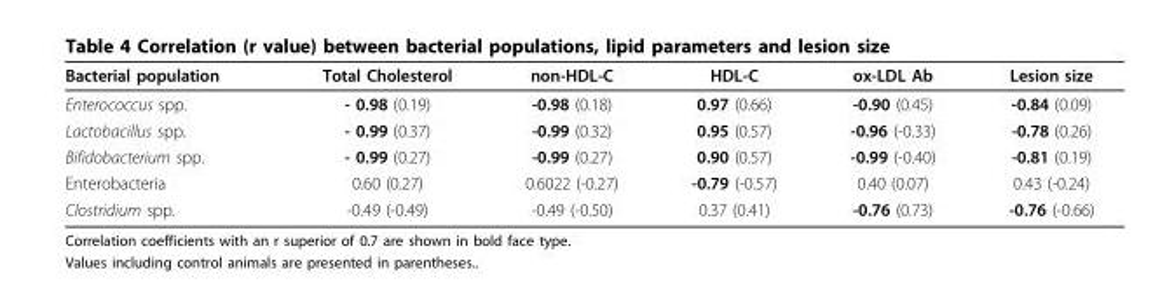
<table><thead><tr><td>Bacterial population</td><td>Total Cholesterol</td><td>non-HDL-C</td><td>HDL-C</td><td>ox-LDL Ab</td><td>Lesion size</td></tr></thead><tbody><tr><td>Enterococcus spp.</td><td>- 0.98 (0.19)</td><td>-0.98 (0.18)</td><td>0.97 (0.66)</td><td>-0.90 (0.45)</td><td>-0.84 (0.09)</td></tr><tr><td>Lactobacillus spp.</td><td>- 0.99 (0.37)</td><td>-0.99 (0.32)</td><td>0.95 (0.57)</td><td>-0.96 (-0.33)</td><td>-0.78 (0.26)</td></tr><tr><td>Bifidobacterium spp.</td><td>- 0.99 (0.27)</td><td>-0.99 (0.27)</td><td>0.90 (0.57)</td><td>-0.99 (-0.40)</td><td>-0.81 (0.19)</td></tr><tr><td>Enterobacteria</td><td>0.60 (0.27)</td><td>0.6022 (-0.27)</td><td>-0.79 (-0.57)</td><td>0.40 (0.07)</td><td>0.43 (-0.24)</td></tr><tr><td>Clostridium spp.</td><td>-0.49 (-0.49)</td><td>-0.49 (-0.50)</td><td>0.37 (0.41)</td><td>-0.76 (0.73)</td><td>-0.76 (-0.66)</td></tr></tbody></table>